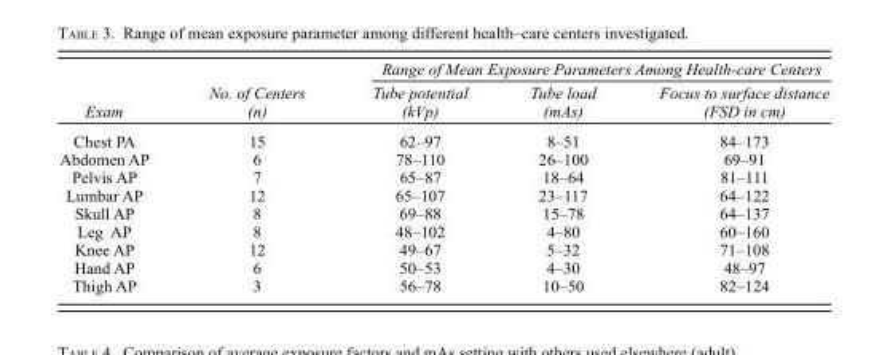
<table><thead><tr><td rowspan="2">Exam</td><td rowspan="2">No. of Centers (n)</td><td colspan="3">Range of Mean Exposure Parameters Among Health-care Centers</td></tr><tr><td>Tube potential (kVp)</td><td>Tube load (mAs)</td><td>Focus to surface distance (FSD in cm)</td></tr></thead><tbody><tr><td>Chest PA</td><td>15</td><td>62–97</td><td>8–51</td><td>84–173</td></tr><tr><td>Abdomen AP</td><td>6</td><td>78–110</td><td>26–100</td><td>69–91</td></tr><tr><td>Pelvis AP</td><td>7</td><td>65–87</td><td>18–64</td><td>81–111</td></tr><tr><td>Lumbar AP</td><td>12</td><td>65–107</td><td>23–117</td><td>64–122</td></tr><tr><td>Skull AP</td><td>8</td><td>69–88</td><td>15–78</td><td>64–137</td></tr><tr><td>Leg AP</td><td>8</td><td>48–102</td><td>4–80</td><td>60–160</td></tr><tr><td>Knee AP</td><td>12</td><td>49–67</td><td>5–32</td><td>71–108</td></tr><tr><td>Hand AP</td><td>6</td><td>50–53</td><td>4–30</td><td>48–97</td></tr><tr><td>Thigh AP</td><td>3</td><td>56–78</td><td>10–50</td><td>82–124</td></tr></tbody></table>